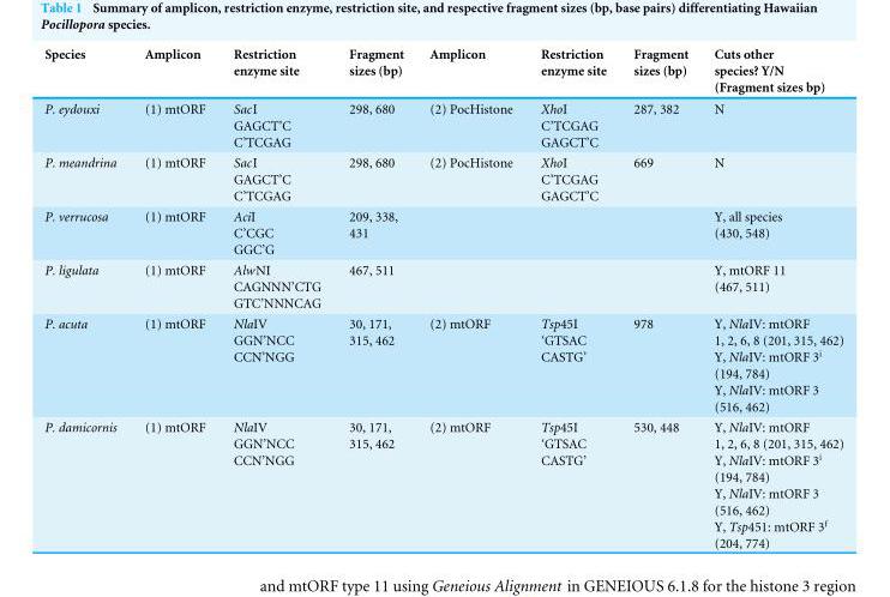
<table><thead><tr><td>Species</td><td>Amplicon</td><td>Restriction enzyme site</td><td>Fragment sizes (bp)</td><td>Amplicon</td><td>Restriction enzyme site</td><td>Fragment sizes (bp)</td><td>Cuts other species? Y/N (Fragment sizes bp)</td></tr></thead><tbody><tr><td>P. eydouxi</td><td>(1) mtORF</td><td>SacI GAGCT’C C’TCGAG</td><td>298, 680</td><td>(2) PocHistone</td><td>XhoI C’TCGAG GAGCT’C</td><td>287, 382</td><td>N</td></tr><tr><td>P. meandrina</td><td>(1) mtORF</td><td>SacI GAGCT’C C’TCGAG</td><td>298, 680</td><td>(2) PocHistone</td><td>XhoI C’TCGAG GAGCT’C</td><td>669</td><td>N</td></tr><tr><td>P. verrucosa</td><td>(1) mtORF</td><td>AciI C’CGC GGC’G</td><td>209, 338, 431</td><td></td><td></td><td></td><td>Y, all species (430, 548)</td></tr><tr><td>P. ligulata</td><td>(1) mtORF</td><td>AlwNI CAGNNN’CTG GTC’NNNCAG</td><td>467, 511</td><td></td><td></td><td></td><td>Y, mtORF 11 (467, 511)</td></tr><tr><td>P. acuta</td><td>(1) mtORF</td><td>NlaIV GGN’NCC CCN’NGG</td><td>30, 171, 315, 462</td><td>(2) mtORF</td><td>Tsp45I ‘GTSAC CASTG’</td><td>978</td><td>Y, NlaIV: mtORF 1, 2, 6, 8 (201, 315, 462) Y, NlaIV: mtORF 3<sup>i</sup> (194, 784) Y, NlaIV: mtORF 3 (516, 462)</td></tr><tr><td>P. damicornis</td><td>(1) mtORF</td><td>NlaIV GGN’NCC CCN’NGG</td><td>30, 171, 315, 462</td><td>(2) mtORF</td><td>Tsp45I ‘GTSAC CASTG’</td><td>530, 448</td><td>Y, NlaIV: mtORF 1, 2, 6, 8 (201, 315, 462) Y, NlaIV: mtORF 3<sup>i</sup> (194, 784) Y, NlaIV: mtORF 3 (516, 462) Y, Tsp451: mtORF 3<sup>f</sup> (204, 774)</td></tr></tbody></table>